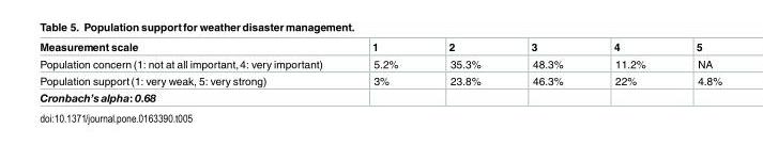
<table><thead><tr><td>Measurement scale</td><td>1</td><td>2</td><td>3</td><td>4</td><td>5</td></tr></thead><tbody><tr><td>Population concern (1: not at all important,4: very important)</td><td>5.2%</td><td>35.3%</td><td>48.3%</td><td>11.2%</td><td>NA</td></tr><tr><td>Population support(1: very weak, 5: very strong)</td><td>3%</td><td>23.8%</td><td>46.3%</td><td>22%</td><td>4.8%</td></tr><tr><td>Cronbach’s alpha: 0.68</td><td></td><td></td><td></td><td></td><td></td></tr></tbody></table>